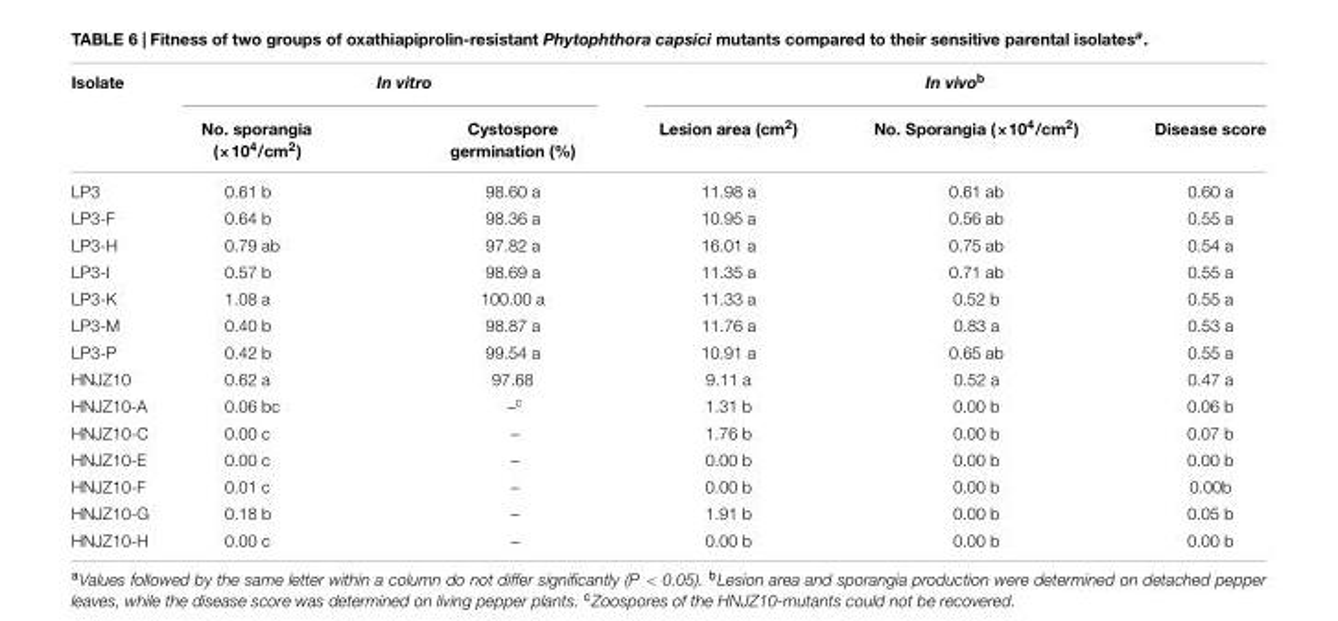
<table><thead><tr><td rowspan="2">Isolate</td><td colspan="2">In vitro</td><td colspan="3">In vivo<sup>b</sup></td></tr><tr><td>No. sporangia (×10<sup>4</sup>/cm<sup>2</sup>)</td><td>Cystospore germination (%)</td><td>Lesion area (cm<sup>2</sup>)</td><td>No. Sporangia (×10<sup>4</sup>/cm<sup>2</sup>)</td><td>Disease score</td></tr></thead><tbody><tr><td>LP3</td><td>0.61 b</td><td>98.60 a</td><td>11.98 a</td><td>0.61 ab</td><td>0.60 a</td></tr><tr><td>LP3-F</td><td>0.64 b</td><td>98.36 a</td><td>10.95 a</td><td>0.56 ab</td><td>0.55 a</td></tr><tr><td>LP3-H</td><td>0.79 ab</td><td>97.82 a</td><td>16.01 a</td><td>0.75 ab</td><td>0.54 a</td></tr><tr><td>LP3-I</td><td>0.57 b</td><td>98.69 a</td><td>11.35 a</td><td>0.71 ab</td><td>0.55 a</td></tr><tr><td>LP3-K</td><td>1.08 a</td><td>100.00 a</td><td>11.33 a</td><td>0.52 b</td><td>0.55 a</td></tr><tr><td>LP3-M</td><td>0.40 b</td><td>98.87 a</td><td>11.76 a</td><td>0.83 a</td><td>0.53 a</td></tr><tr><td>LP3-P</td><td>0.42 b</td><td>99.54 a</td><td>10.91 a</td><td>0.65 ab</td><td>0.55 a</td></tr><tr><td>HNJZ10</td><td>0.62 a</td><td>97.68</td><td>9.11 a</td><td>0.52 a</td><td>0.47 a</td></tr><tr><td>HNJZ10-A</td><td>0.06 bc</td><td>–<sup>c</sup></td><td>1.31 b</td><td>0.00 b</td><td>0.06 b</td></tr><tr><td>HNJZ10-C</td><td>0.00 c</td><td>–</td><td>1.76 b</td><td>0.00 b</td><td>0.07 b</td></tr><tr><td>HNJZ10-E</td><td>0.00 c</td><td>–</td><td>0.00 b</td><td>0.00 b</td><td>0.00 b</td></tr><tr><td>HNJZ10-F</td><td>0.01 c</td><td>–</td><td>0.00 b</td><td>0.00 b</td><td>0.00b</td></tr><tr><td>HNJZ10-G</td><td>0.18 b</td><td>–</td><td>1.91 b</td><td>0.00 b</td><td>0.05 b</td></tr><tr><td>HNJZ10-H</td><td>0.00 c</td><td>–</td><td>0.00 b</td><td>0.00 b</td><td>0.00 b</td></tr></tbody></table>